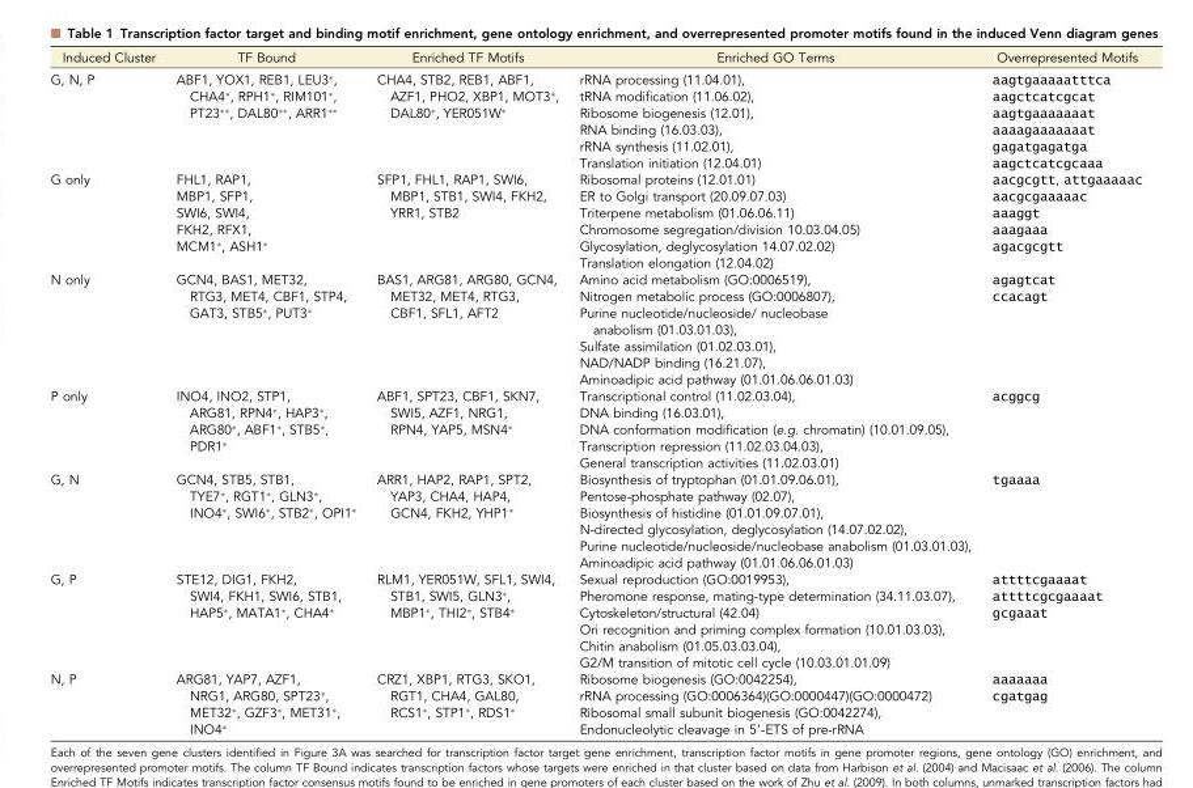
<table><thead><tr><td>Induced Cluster</td><td>TF Bound</td><td>Enriched TF Motifs</td><td>Enriched GO Terms</td><td>Overrepresented Motifs</td></tr></thead><tbody><tr><td rowspan="6">G, N, P</td><td rowspan="6">ABF1, YOX1, REB1, LEU3*, CHA4*, RPH1*, RIM101*, PT23**, DAL80**, ARR1**</td><td rowspan="6">CHA4, STB2, REB1, ABF1, AZF1, PHO2, XBP1, MOT3*, DAL80*, YER051W*</td><td>rRNA processing (11.04.01),</td><td>aagtgaaaaatttca</td></tr><tr><td>tRNA modification (11.06.02),</td><td>aagctcatcgcat</td></tr><tr><td>Ribosome biogenesis (12.01),</td><td>aagtgaaaaaaat</td></tr><tr><td>RNA binding (16.03.03),</td><td>aaaagaaaaaaat</td></tr><tr><td>rRNA synthesis (11.02.01),</td><td>gagatgagatga</td></tr><tr><td>Translation initiation (12.04.01)</td><td>aagctcatcgcaaa</td></tr><tr><td rowspan="6">G only</td><td>FHL1, RAP1,</td><td rowspan="6">SFP1, FHL1, RAP1, SWI6, MBP1, STB1, SWI4, FKH2, YRR1, STB2</td><td>Ribosomal proteins (12.01.01)</td><td>aacgcgtt, attgaaaaac</td></tr><tr><td>MBP1, SFP1,</td><td>ER to Golgi transport (20.09.07.03)</td><td>aacgcgaaaaac</td></tr><tr><td>SWI6, SWI4,</td><td>Triterpene metabolism (01.06.06.11)</td><td>aaaggt</td></tr><tr><td>FKH2, RFX1,</td><td>Chromosome segregation/division 10.03.04.05)</td><td>aaagaaa</td></tr><tr><td rowspan="2">MCM1*, ASH1*</td><td>Glycosylation, deglycosylation 14.07.02.02)</td><td rowspan="2">agacgcgtt</td></tr><tr><td>Translation elongation (12.04.02)</td></tr><tr><td rowspan="6">N only</td><td rowspan="6">GCN4, BAS1, MET32, RTG3, MET4, CBF1, STP4, GAT3, STB5*, PUT3*</td><td rowspan="6">BAS1, ARG81, ARG80, GCN4, MET32, MET4, RTG3, CBF1, SFL1, AFT2</td><td>Amino acid metabolism (GO:0006519),</td><td>agagtcat</td></tr><tr><td>Nitrogen metabolic process (GO:0006807),</td><td rowspan="5">ccacagt</td></tr><tr><td>Purine nucleotide/nucleoside/ nucleobase anabolism (01.03.01.03),</td></tr><tr><td>Sulfate assimilation (01.02.03.01),</td></tr><tr><td>NAD/NADP binding (16.21.07),</td></tr><tr><td>Aminoadipic acid pathway (01.01.06.06.01.03)</td></tr><tr><td rowspan="5">P only</td><td rowspan="5">INO4, INO2, STP1, ARG81, RPN4*, HAP3*, ARG80*, ABF1*, STB5*, PDR1*</td><td rowspan="5">ABF1, SPT23, CBF1, SKN7, SWI5, AZF1, NRG1, RPN4, YAP5, MSN4*</td><td>Transcriptional control (11.02.03.04),</td><td rowspan="5">acggcg</td></tr><tr><td>DNA binding (16.03.01),</td></tr><tr><td>DNA conformation modification (e.g. chromatin) (10.01.09.05),</td></tr><tr><td>Transcription repression (11.02.03.04.03),</td></tr><tr><td>General transcription activities (11.02.03.01)</td></tr><tr><td rowspan="6">G, N</td><td rowspan="6">GCN4, STB5, STB1, TYE7*, RGT1*, GLN3*, INO4*, SWI6*, STB2*, OPI1*</td><td rowspan="6">ARR1, HAP2, RAP1, SPT2, YAP3, CHA4, HAP4, GCN4, FKH2, YHP1*</td><td>Biosynthesis of tryptophan (01.01.09.06.01),</td><td rowspan="6">tgaaaa</td></tr><tr><td>Pentose-phosphate pathway (02.07),</td></tr><tr><td>Biosynthesis of histidine (01.01.09.07.01),</td></tr><tr><td>N-directed glycosylation, deglycosylation (14.07.02.02),</td></tr><tr><td>Purine nucleotide/nucleoside/nucleobase anabolism (01.03.01.03),</td></tr><tr><td>Aminoadipic acid pathway (01.01.06.06.01.03)</td></tr><tr><td rowspan="6">G, P</td><td rowspan="6">STE12, DIG1, FKH2, SWI4, FKH1, SWI6, STB1, HAP5*, MATA1*, CHA4*</td><td rowspan="6">RLM1, YER051W, SFL1, SWI4, STB1, SWI5, GLN3*, MBP1*, THI2*, STB4*</td><td>Sexual reproduction (GO:0019953),</td><td>attttcgaaaat</td></tr><tr><td>Pheromone response, mating-type determination (34.11.03.07),</td><td>attttcgcgaaaat</td></tr><tr><td>Cytoskeleton/structural (42.04)</td><td rowspan="4">gcgaaat</td></tr><tr><td>Ori recognition and priming complex formation (10.01.03.03),</td></tr><tr><td>Chitin anabolism (01.05.03.03.04),</td></tr><tr><td>G2/M transition of mitotic cell cycle (10.03.01.01.09)</td></tr><tr><td rowspan="4">N, P</td><td rowspan="4">ARG81, YAP7, AZF1, NRG1, ARG80, SPT23*, MET32*, GZF3*, MET31*, INO4*</td><td rowspan="4">CRZ1, XBP1, RTG3, SKO1, RGT1, CHA4, GAL80, RCS1*, STP1*, RDS1*</td><td>Ribosome biogenesis (GO:0042254),</td><td>aaaaaaa</td></tr><tr><td>rRNA processing (GO:0006364)(GO:0000447)(GO:0000472)</td><td rowspan="3">cgatgag</td></tr><tr><td>Ribosomal small subunit biogenesis (GO:0042274),</td></tr><tr><td>Endonucleolytic cleavage in 5′-ETS of pre-rRNA</td></tr></tbody></table>